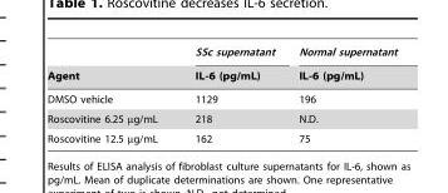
<table><thead><tr><td rowspan="2">Agent</td><td rowspan="2">SSc supernatant IL-6 (pg/mL)</td><td rowspan="2">Normal supernatant IL-6 (pg/mL)</td></tr><tr></tr></thead><tbody><tr><td>DMSO vehicle</td><td>1129</td><td>196</td></tr><tr><td>Roscovitine 6.25 µg/mL</td><td>218</td><td>N.D.</td></tr><tr><td>Roscovitine 12.5 µg/mL</td><td>162</td><td>75</td></tr></tbody></table>